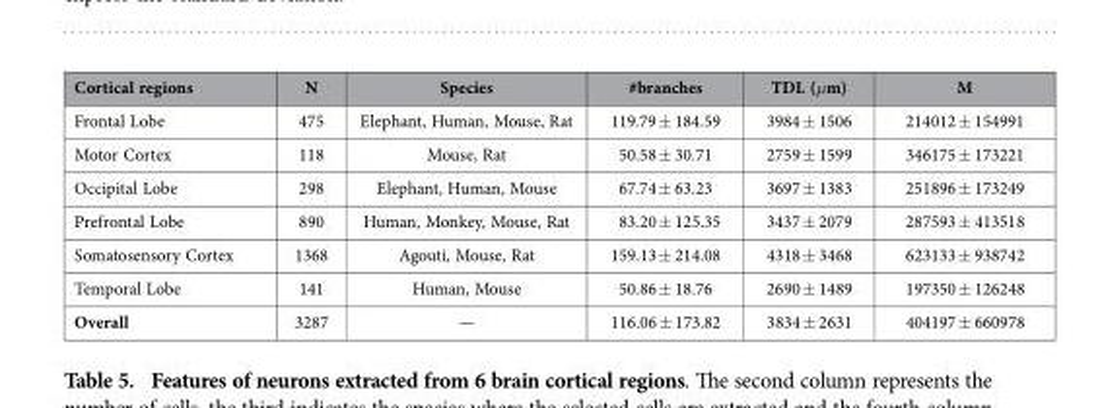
<table><thead><tr><td>Cortical regions</td><td>N</td><td>Species</td><td>#branches</td><td>TDL (μm)</td><td>M</td></tr></thead><tbody><tr><td>Frontal Lobe</td><td>475</td><td>Elephant, Human, Mouse, Rat</td><td>119.79 ± 184.59</td><td>3984 ± 1506</td><td>214012 ± 154991</td></tr><tr><td>Motor Cortex</td><td>118</td><td>Mouse, Rat</td><td>50.58 ± 30.71</td><td>2759 ± 1599</td><td>346175 ± 173221</td></tr><tr><td>Occipital Lobe</td><td>298</td><td>Elephant, Human, Mouse</td><td>67.74 ± 63.23</td><td>3697 ± 1383</td><td>251896 ± 173249</td></tr><tr><td>Prefrontal Lobe</td><td>890</td><td>Human, Monkey, Mouse, Rat</td><td>83.20 ± 125.35</td><td>3437 ± 2079</td><td>287593 ± 413518</td></tr><tr><td>Somatosensory Cortex</td><td>1368</td><td>Agouti, Mouse, Rat</td><td>159.13 ± 214.08</td><td>4318 ± 3468</td><td>623133 ± 938742</td></tr><tr><td>Temporal Lobe</td><td>141</td><td>Human, Mouse</td><td>50.86 ± 18.76</td><td>2690 ± 1489</td><td>197350 ± 126248</td></tr><tr><td>Overall</td><td>3287</td><td>—</td><td>116.06 ± 173.82</td><td>3834 ± 2631</td><td>404197 ± 660978</td></tr></tbody></table>